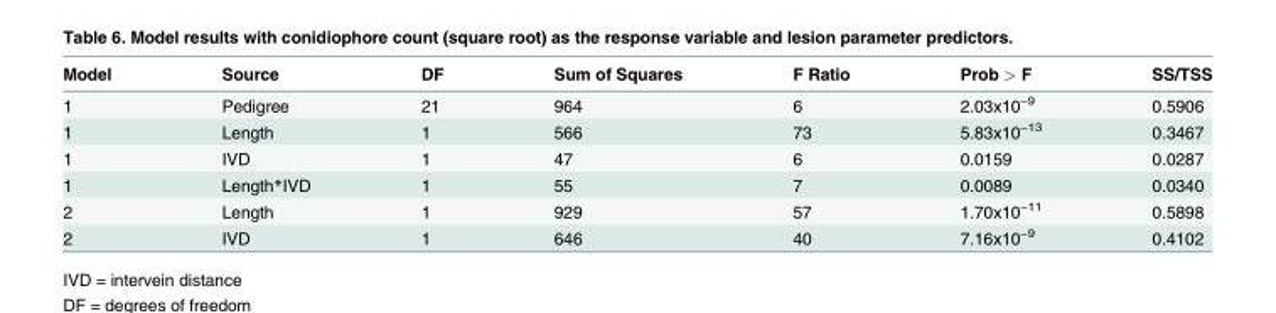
<table><thead><tr><td>Model</td><td>Source</td><td>DF</td><td>Sum of Squares</td><td>F Ratio</td><td>Prob &gt; F</td><td>SS/TSS</td></tr></thead><tbody><tr><td>1</td><td>Pedigree</td><td>21</td><td>964</td><td>6</td><td>2.03x10<sup>−9</sup></td><td>0.5906</td></tr><tr><td>1</td><td>Length</td><td>1</td><td>566</td><td>73</td><td>5.83x10<sup>−13</sup></td><td>0.3467</td></tr><tr><td>1</td><td>IVD</td><td>1</td><td>47</td><td>6</td><td>0.0159</td><td>0.0287</td></tr><tr><td>1</td><td>Length*IVD</td><td>1</td><td>55</td><td>7</td><td>0.0089</td><td>0.0340</td></tr><tr><td>2</td><td>Length</td><td>1</td><td>929</td><td>57</td><td>1.70x10<sup>−11</sup></td><td>0.5898</td></tr><tr><td>2</td><td>IVD</td><td>1</td><td>646</td><td>40</td><td>7.16x10<sup>−9</sup></td><td>0.4102</td></tr></tbody></table>